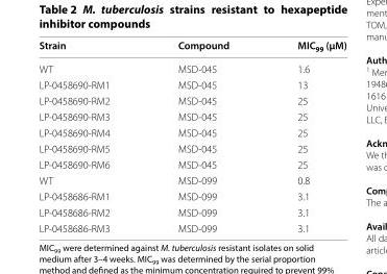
<table><thead><tr><td>Strain</td><td>Compound</td><td>MIC<sub>99</sub> (µM)</td></tr></thead><tbody><tr><td>WT</td><td>MSD-045</td><td>1.6</td></tr><tr><td>LP-0458690-RM1</td><td>MSD-045</td><td>13</td></tr><tr><td>LP-0458690-RM2</td><td>MSD-045</td><td>25</td></tr><tr><td>LP-0458690-RM3</td><td>MSD-045</td><td>25</td></tr><tr><td>LP-0458690-RM4</td><td>MSD-045</td><td>25</td></tr><tr><td>LP-0458690-RM5</td><td>MSD-045</td><td>25</td></tr><tr><td>LP-0458690-RM6</td><td>MSD-045</td><td>25</td></tr><tr><td>WT</td><td>MSD-099</td><td>0.8</td></tr><tr><td>LP-0458686-RM1</td><td>MSD-099</td><td>3.1</td></tr><tr><td>LP-0458686-RM2</td><td>MSD-099</td><td>3.1</td></tr><tr><td>LP-0458686-RM3</td><td>MSD-099</td><td>3.1</td></tr></tbody></table>